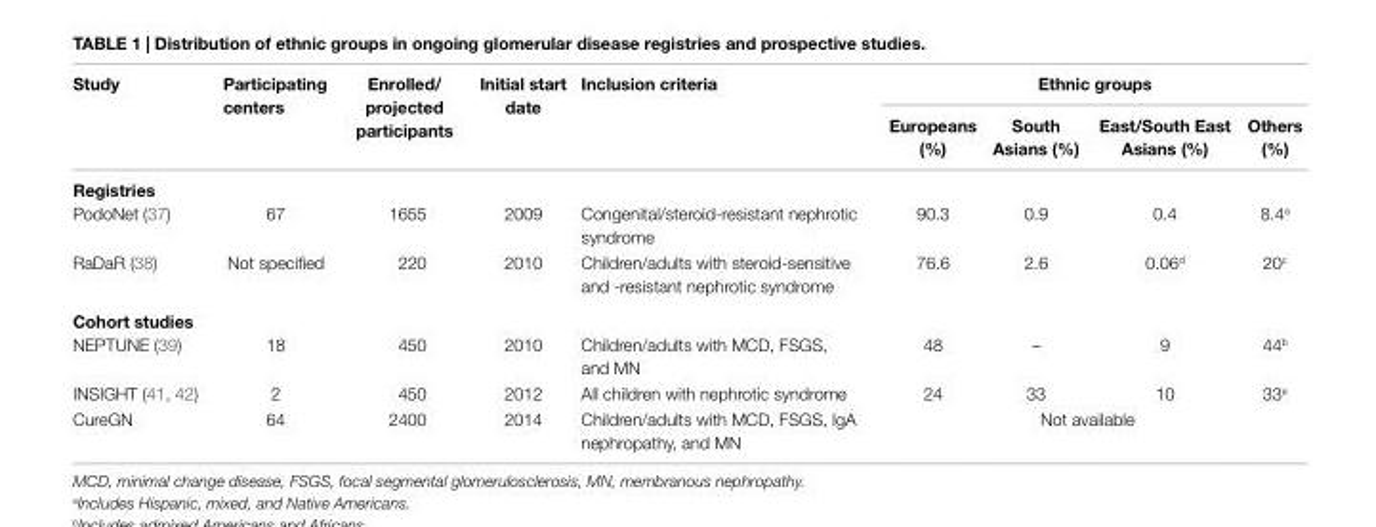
<table><thead><tr><td rowspan="2">Study</td><td rowspan="2">Participating centers</td><td rowspan="2">enrolled/ projected participants</td><td rowspan="2">initial start date</td><td rowspan="2">inclusion criteria</td><td colspan="4">ethnic groups</td></tr><tr><td>europeans (%)</td><td>South Asians (%)</td><td>east/South east Asians (%)</td><td>Others (%)</td></tr></thead><tbody><tr><td colspan="9">Registries</td></tr><tr><td>PodoNet (37)</td><td>67</td><td>1655</td><td>2009</td><td>Congenital/steroid-resistant nephrotic syndrome</td><td>90.3</td><td>0.9</td><td>0.4</td><td>8.4<sup>a</sup></td></tr><tr><td>RaDaR (38)</td><td>Not specified</td><td>220</td><td>2010</td><td>Children/adults with steroid-sensitive and -resistant nephrotic syndrome</td><td>76.6</td><td>2.6</td><td>0.06<sup>d</sup></td><td>20<sup>c</sup></td></tr><tr><td colspan="9">Cohort studies</td></tr><tr><td>NEPTUNE (39)</td><td>18</td><td>450</td><td>2010</td><td>Children/adults with MCD, FSGS, and MN</td><td>48</td><td>–</td><td>9</td><td>44<sup>b</sup></td></tr><tr><td>INSIGHT (41, 42)</td><td>2</td><td>450</td><td>2012</td><td>All children with nephrotic syndrome</td><td>24</td><td>33</td><td>10</td><td>33<sup>e</sup></td></tr><tr><td>CureGN</td><td>64</td><td>2400</td><td>2014</td><td>Children/adults with MCD, FSGS, IgA nephropathy, and MN</td><td colspan="4">Not available</td></tr></tbody></table>